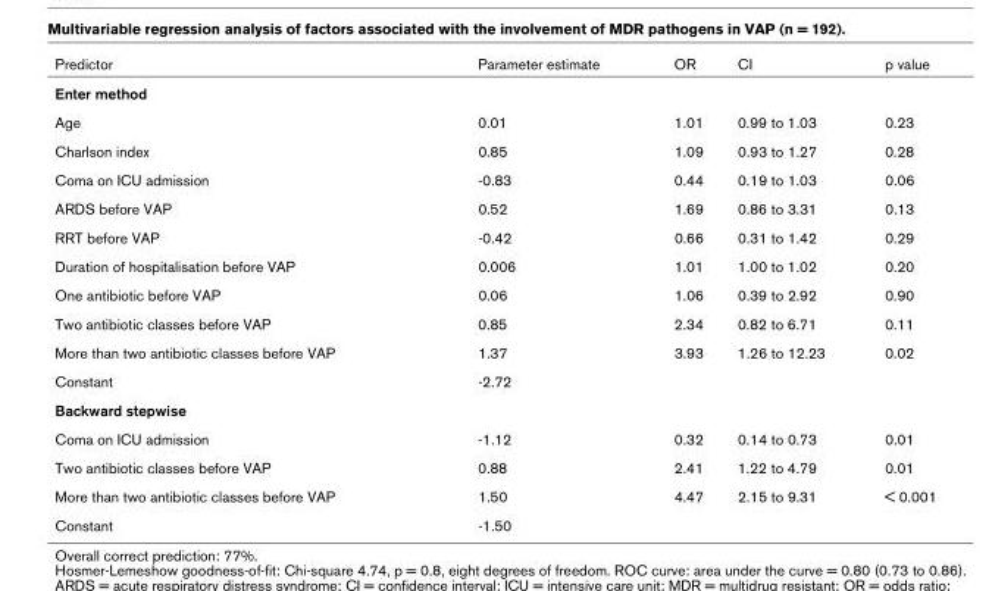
<table><thead><tr><td>Predictor</td><td>Parameter estimate</td><td>OR</td><td>CI</td><td>p value</td></tr></thead><tbody><tr><td colspan="5">Enter method</td></tr><tr><td>Age</td><td>0.01</td><td>1.01</td><td>0.99 to 1.03</td><td>0.23</td></tr><tr><td>Charlson index</td><td>0.85</td><td>1.09</td><td>0.93 to 1.27</td><td>0.28</td></tr><tr><td>Coma on ICU admission</td><td>-0.83</td><td>0.44</td><td>0.19 to 1.03</td><td>0.06</td></tr><tr><td>ARDS before VAP</td><td>0.52</td><td>1.69</td><td>0.86 to 3.31</td><td>0.13</td></tr><tr><td>RRT before VAP</td><td>-0.42</td><td>0.66</td><td>0.31 to 1.42</td><td>0.29</td></tr><tr><td>Duration of hospitalisation before VAP</td><td>0.006</td><td>1.01</td><td>1.00 to 1.02</td><td>0.20</td></tr><tr><td>One antibiotic before VAP</td><td>0.06</td><td>1.06</td><td>0.39 to 2.92</td><td>0.90</td></tr><tr><td>Two antibiotic classes before VAP</td><td>0.85</td><td>2.34</td><td>0.82 to 6.71</td><td>0.11</td></tr><tr><td>More than two antibiotic classes before VAP</td><td>1.37</td><td>3.93</td><td>1.26 to 12.23</td><td>0.02</td></tr><tr><td>Constant</td><td>-2.72</td><td></td><td></td><td></td></tr><tr><td colspan="5">Backward stepwise</td></tr><tr><td>Coma on ICU admission</td><td>-1.12</td><td>0.32</td><td>0.14 to 0.73</td><td>0.01</td></tr><tr><td>Two antibiotic classes before VAP</td><td>0.88</td><td>2.41</td><td>1.22 to 4.79</td><td>0.01</td></tr><tr><td>More than two antibiotic classes before VAP</td><td>1.50</td><td>4.47</td><td>2.15 to 9.31</td><td>&lt; 0.001</td></tr><tr><td>Constant</td><td>-1.50</td><td></td><td></td><td></td></tr></tbody></table>